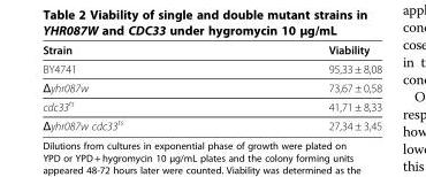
<table><thead><tr><td>Strain</td><td>Viability</td></tr></thead><tbody><tr><td>BY4741</td><td>95,33 ± 8,08</td></tr><tr><td>Δyhr087w</td><td>73,67 ± 0,58</td></tr><tr><td>cdc33<sup>ts</sup></td><td>41,71 ± 8,33</td></tr><tr><td>Δyhr087w cdc33<sup>ts</sup></td><td>27,34 ± 3,45</td></tr></tbody></table>